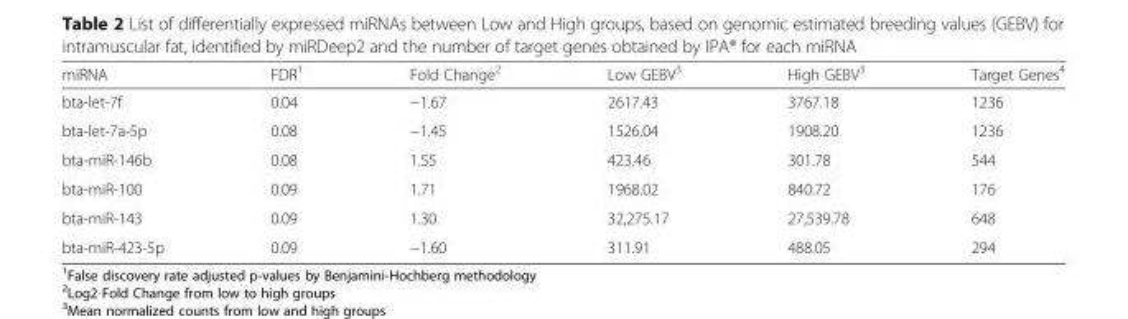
<table><thead><tr><td>miRNA</td><td>FDR<sup>1</sup></td><td>Fold Change<sup>2</sup></td><td>Low GEBV<sup>3</sup></td><td>High GEBV<sup>3</sup></td><td>Target Genes<sup>4</sup></td></tr></thead><tbody><tr><td>bta-let-7f</td><td>0.04</td><td>−1.67</td><td>2617.43</td><td>3767.18</td><td>1236</td></tr><tr><td>bta-let-7a-5p</td><td>0.08</td><td>−1.45</td><td>1526.04</td><td>1908.20</td><td>1236</td></tr><tr><td>bta-miR-146b</td><td>0.08</td><td>1.55</td><td>423.46</td><td>301.78</td><td>544</td></tr><tr><td>bta-miR-100</td><td>0.09</td><td>1.71</td><td>1968.02</td><td>840.72</td><td>176</td></tr><tr><td>bta-miR-143</td><td>0.09</td><td>1.30</td><td>32,275.17</td><td>27,539.78</td><td>648</td></tr><tr><td>bta-miR-423-5p</td><td>0.09</td><td>−1.60</td><td>311.91</td><td>488.05</td><td>294</td></tr></tbody></table>